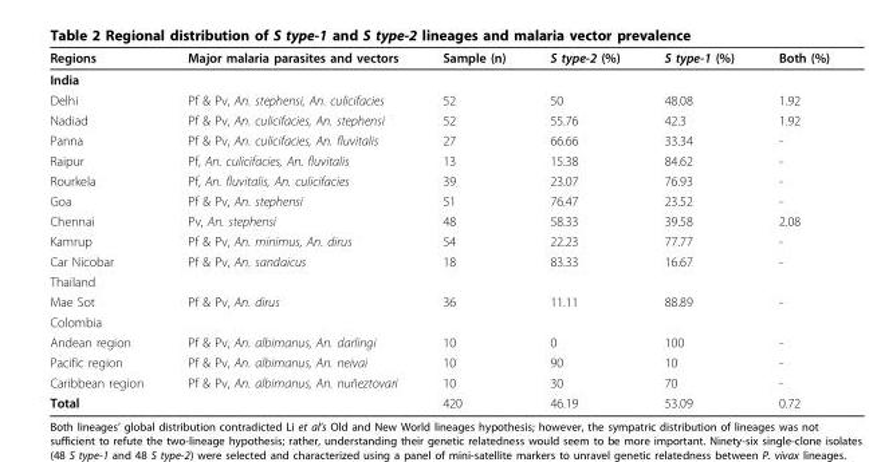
<table><thead><tr><td>Regions</td><td>Major malaria parasites and vectors</td><td>Sample (n)</td><td>S type-2 (%)</td><td>S type-1 (%)</td><td>Both (%)</td></tr></thead><tbody><tr><td colspan="6">India</td></tr><tr><td>Delhi</td><td>Pf &amp; Pv, An. stephensi, An. culicifacies</td><td>52</td><td>50</td><td>48.08</td><td>1.92</td></tr><tr><td>Nadiad</td><td>Pf &amp; Pv, An. culicifacies, An. stephensi</td><td>52</td><td>55.76</td><td>42.3</td><td>1.92</td></tr><tr><td>Panna</td><td>Pf &amp; Pv, An. culicifacies, An. fluvitalis</td><td>27</td><td>66.66</td><td>33.34</td><td>-</td></tr><tr><td>Raipur</td><td>Pf, An. culicifacies, An. fluvitalis</td><td>13</td><td>15.38</td><td>84.62</td><td>-</td></tr><tr><td>Rourkela</td><td>Pf, An. fluvitalis, An. culicifacies</td><td>39</td><td>23.07</td><td>76.93</td><td>-</td></tr><tr><td>Goa</td><td>Pf &amp; Pv, An. stephensi</td><td>51</td><td>76.47</td><td>23.52</td><td>-</td></tr><tr><td>Chennai</td><td>Pv, An. stephensi</td><td>48</td><td>58.33</td><td>39.58</td><td>2.08</td></tr><tr><td>Kamrup</td><td>Pf &amp; Pv, An. minimus, An. dirus</td><td>54</td><td>22.23</td><td>77.77</td><td>-</td></tr><tr><td>Car Nicobar</td><td>Pf &amp; Pv, An. sandaicus</td><td>18</td><td>83.33</td><td>16.67</td><td>-</td></tr><tr><td colspan="6">Thailand</td></tr><tr><td>Mae Sot</td><td>Pf &amp; Pv, An. dirus</td><td>36</td><td>11.11</td><td>88.89</td><td>-</td></tr><tr><td colspan="6">Colombia</td></tr><tr><td>Andean region</td><td>Pf &amp; Pv, An. albimanus, An. darlingi</td><td>10</td><td>0</td><td>100</td><td>-</td></tr><tr><td>Pacific region</td><td>Pf &amp; Pv, An. albimanus, An. neivai</td><td>10</td><td>90</td><td>10</td><td>-</td></tr><tr><td>Caribbean region</td><td>Pf &amp; Pv, An. albimanus, An. nuñeztovari</td><td>10</td><td>30</td><td>70</td><td>-</td></tr><tr><td>Total</td><td></td><td>420</td><td>46.19</td><td>53.09</td><td>0.72</td></tr></tbody></table>